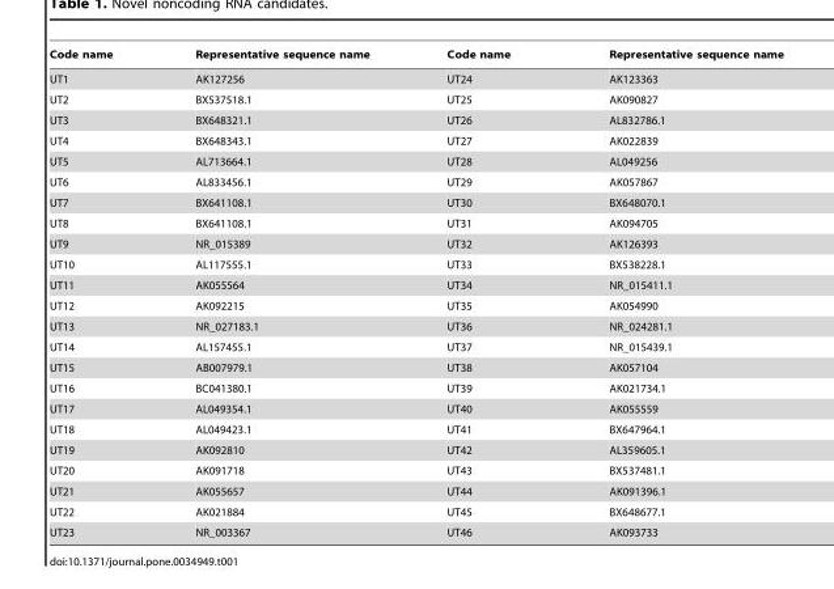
<table><thead><tr><td>Code name</td><td>Representative sequence name</td><td>Code name</td><td>Representative sequence name</td></tr></thead><tbody><tr><td>UT1</td><td>AK127256</td><td>UT24</td><td>AK123363</td></tr><tr><td>UT2</td><td>BX537518.1</td><td>UT25</td><td>AK090827</td></tr><tr><td>UT3</td><td>BX648321.1</td><td>UT26</td><td>AL832786.1</td></tr><tr><td>UT4</td><td>BX648343.1</td><td>UT27</td><td>AK022839</td></tr><tr><td>UT5</td><td>AL713664.1</td><td>UT28</td><td>AL049256</td></tr><tr><td>UT6</td><td>AL833456.1</td><td>UT29</td><td>AK057867</td></tr><tr><td>UT7</td><td>BX641108.1</td><td>UT30</td><td>BX648070.1</td></tr><tr><td>UT8</td><td>BX641108.1</td><td>UT31</td><td>AK094705</td></tr><tr><td>UT9</td><td>NR_015389</td><td>UT32</td><td>AK126393</td></tr><tr><td>UT10</td><td>AL117555.1</td><td>UT33</td><td>BX538228.1</td></tr><tr><td>UT11</td><td>AK055564</td><td>UT34</td><td>NR_015411.1</td></tr><tr><td>UT12</td><td>AK092215</td><td>UT35</td><td>AK054990</td></tr><tr><td>UT13</td><td>NR_027183.1</td><td>UT36</td><td>NR_024281.1</td></tr><tr><td>UT14</td><td>AL157455.1</td><td>UT37</td><td>NR_015439.1</td></tr><tr><td>UT15</td><td>AB007979.1</td><td>UT38</td><td>AK057104</td></tr><tr><td>UT16</td><td>BC041380.1</td><td>UT39</td><td>AK021734.1</td></tr><tr><td>UT17</td><td>AL049354.1</td><td>UT40</td><td>AK055559</td></tr><tr><td>UT18</td><td>AL049423.1</td><td>UT41</td><td>BX647964.1</td></tr><tr><td>UT19</td><td>AK092810</td><td>UT42</td><td>AL359605.1</td></tr><tr><td>UT20</td><td>AK091718</td><td>UT43</td><td>BX537481.1</td></tr><tr><td>UT21</td><td>AK055657</td><td>UT44</td><td>AK091396.1</td></tr><tr><td>UT22</td><td>AK021884</td><td>UT45</td><td>BX648677.1</td></tr><tr><td>UT23</td><td>NR_003367</td><td>UT46</td><td>AK093733</td></tr></tbody></table>